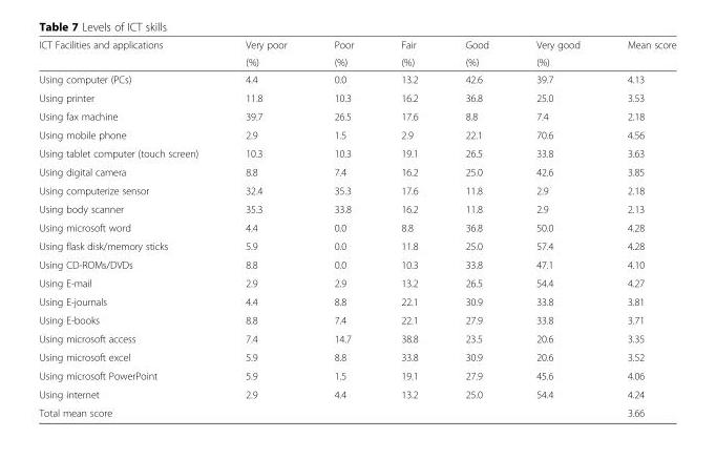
<table><thead><tr><td rowspan="2">ICT Facilities and applications</td><td rowspan="2">Very poor (%)</td><td rowspan="2">Poor (%)</td><td rowspan="2">Fair (%)</td><td rowspan="2">Good (%)</td><td rowspan="2">Very good (%)</td><td rowspan="2">Mean score</td></tr><tr></tr></thead><tbody><tr><td>Using computer (PCs)</td><td>4.4</td><td>0.0</td><td>13.2</td><td>42.6</td><td>39.7</td><td>4.13</td></tr><tr><td>Using printer</td><td>11.8</td><td>10.3</td><td>16.2</td><td>36.8</td><td>25.0</td><td>3.53</td></tr><tr><td>Using fax machine</td><td>39.7</td><td>26.5</td><td>17.6</td><td>8.8</td><td>7.4</td><td>2.18</td></tr><tr><td>Using mobile phone</td><td>2.9</td><td>1.5</td><td>2.9</td><td>22.1</td><td>70.6</td><td>4.56</td></tr><tr><td>Using tablet computer (touch screen)</td><td>10.3</td><td>10.3</td><td>19.1</td><td>26.5</td><td>33.8</td><td>3.63</td></tr><tr><td>Using digital camera</td><td>8.8</td><td>7.4</td><td>16.2</td><td>25.0</td><td>42.6</td><td>3.85</td></tr><tr><td>Using computerize sensor</td><td>32.4</td><td>35.3</td><td>17.6</td><td>11.8</td><td>2.9</td><td>2.18</td></tr><tr><td>Using body scanner</td><td>35.3</td><td>33.8</td><td>16.2</td><td>11.8</td><td>2.9</td><td>2.13</td></tr><tr><td>Using microsoft word</td><td>4.4</td><td>0.0</td><td>8.8</td><td>36.8</td><td>50.0</td><td>4.28</td></tr><tr><td>Using flask disk/memory sticks</td><td>5.9</td><td>0.0</td><td>11.8</td><td>25.0</td><td>57.4</td><td>4.28</td></tr><tr><td>Using CD-ROMs/DVDs</td><td>8.8</td><td>0.0</td><td>10.3</td><td>33.8</td><td>47.1</td><td>4.10</td></tr><tr><td>Using E-mail</td><td>2.9</td><td>2.9</td><td>13.2</td><td>26.5</td><td>54.4</td><td>4.27</td></tr><tr><td>Using E-journals</td><td>4.4</td><td>8.8</td><td>22.1</td><td>30.9</td><td>33.8</td><td>3.81</td></tr><tr><td>Using E-books</td><td>8.8</td><td>7.4</td><td>22.1</td><td>27.9</td><td>33.8</td><td>3.71</td></tr><tr><td>Using microsoft access</td><td>7.4</td><td>14.7</td><td>38.8</td><td>23.5</td><td>20.6</td><td>3.35</td></tr><tr><td>Using microsoft excel</td><td>5.9</td><td>8.8</td><td>33.8</td><td>30.9</td><td>20.6</td><td>3.52</td></tr><tr><td>Using microsoft PowerPoint</td><td>5.9</td><td>1.5</td><td>19.1</td><td>27.9</td><td>45.6</td><td>4.06</td></tr><tr><td>Using internet</td><td>2.9</td><td>4.4</td><td>13.2</td><td>25.0</td><td>54.4</td><td>4.24</td></tr><tr><td>Total mean score</td><td></td><td></td><td></td><td></td><td></td><td>3.66</td></tr></tbody></table>